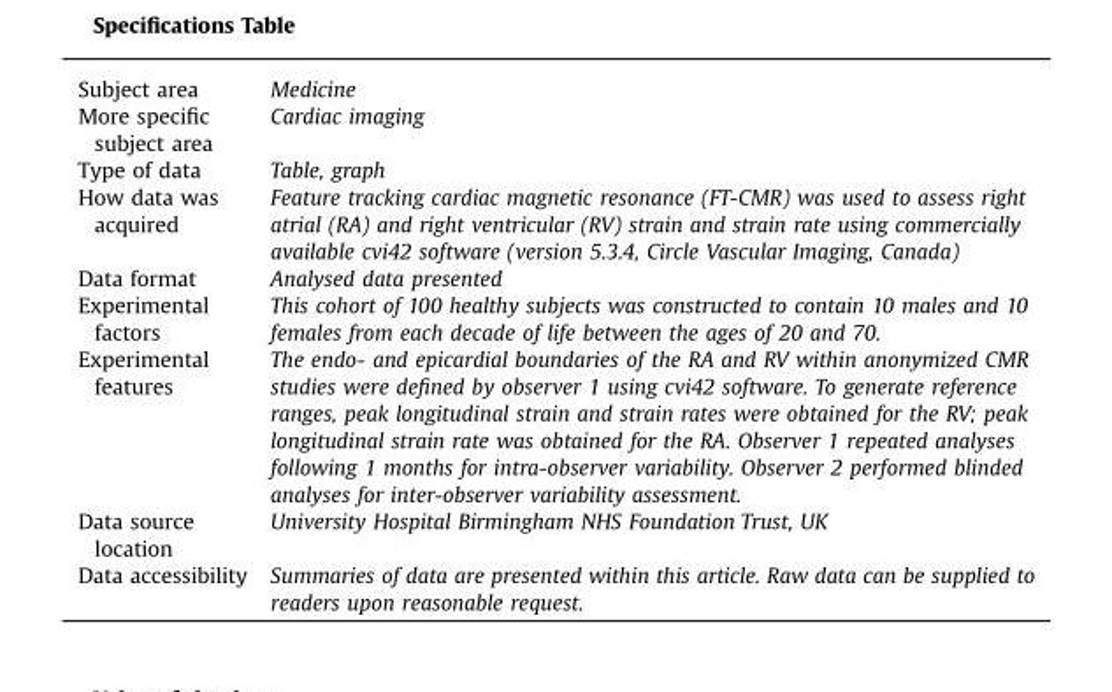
<table><tbody><tr><td>Subject area</td><td>Medicine</td></tr><tr><td>More specific subject area</td><td>Cardiac imaging</td></tr><tr><td>Type of data</td><td>Table, graph</td></tr><tr><td>How data was acquired</td><td>Feature tracking cardiac magnetic resonance (FT-CMR) was used to assess right atrial (RA) and right ventricular (RV) strain and strain rate using commercially available cvi42 software (version 5.3.4, Circle Vascular Imaging, Canada)</td></tr><tr><td>Data format</td><td>Analysed data presented</td></tr><tr><td>Experimental factors</td><td>This cohort of 100 healthy subjects was constructed to contain 10 males and 10 females from each decade of life between the ages of 20 and 70.</td></tr><tr><td>Experimental features</td><td>The endo- and epicardial boundaries of the RA and RV within anonymized CMR studies were defined by observer 1 using cvi42 software. To generate reference ranges, peak longitudinal strain and strain rates were obtained for the RV; peak longitudinal strain rate was obtained for the RA. Observer 1 repeated analyses following 1 months for intra-observer variability. Observer 2 performed blinded analyses for inter-observer variability assessment.</td></tr><tr><td>Data source location</td><td>University Hospital Birmingham NHS Foundation Trust, UK</td></tr><tr><td>Data accessibility</td><td>Summaries of data are presented within this article. Raw data can be supplied to readers upon reasonable request.</td></tr></tbody></table>